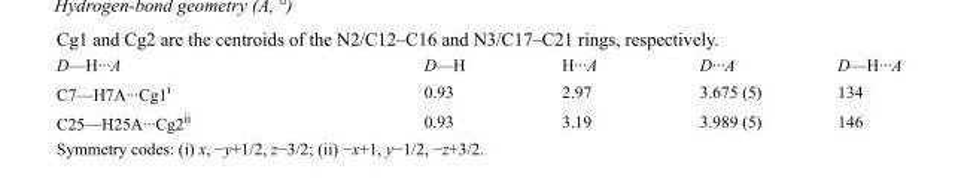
<table><tbody><tr><td>D—H···A</td><td>D—H</td><td>H···A</td><td>D···A</td><td>D—H···A</td></tr><tr><td>C7—H7A···Cg1<sup>i</sup></td><td>0.93</td><td>2.97</td><td>3.675 (5)</td><td>134</td></tr><tr><td>C25—H25A···Cg2<sup>ii</sup></td><td>0.93</td><td>3.19</td><td>3.989 (5)</td><td>146</td></tr></tbody></table>